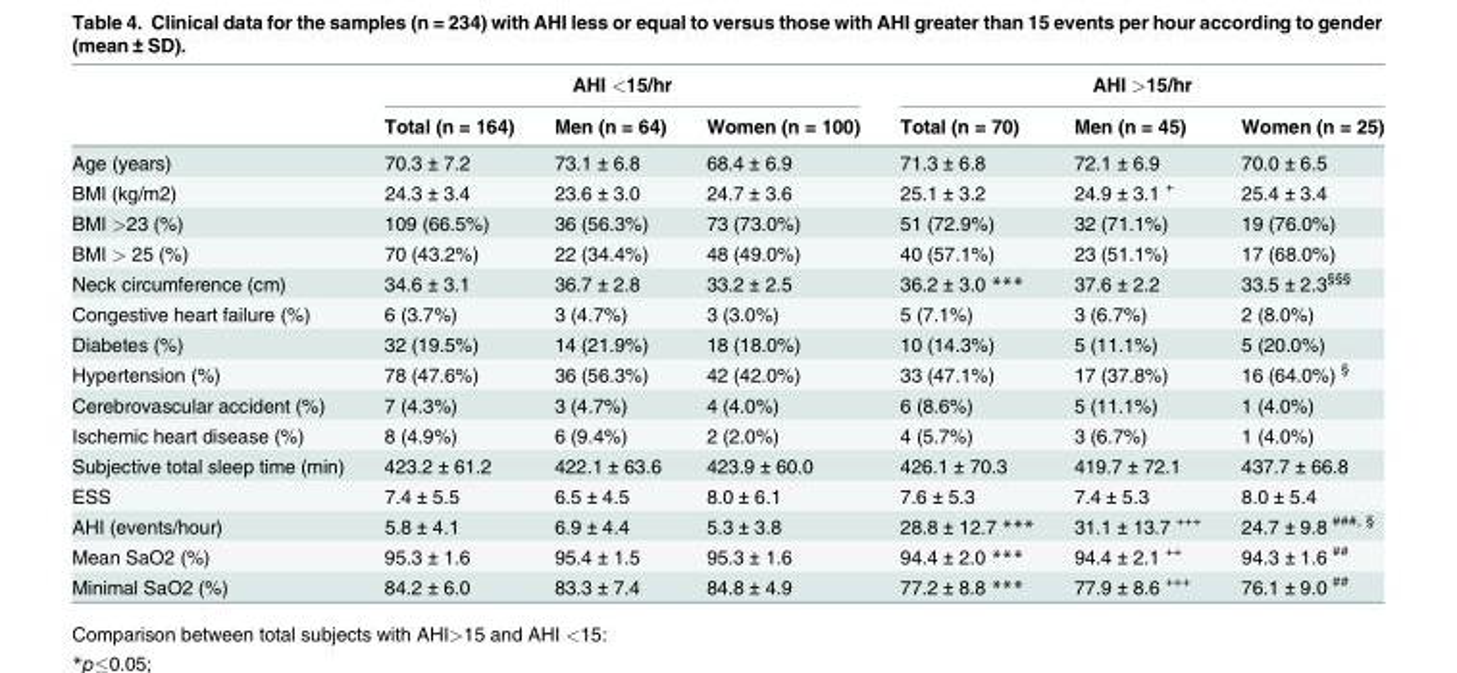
<table><thead><tr><td rowspan="2"></td><td colspan="3">AHI &lt;15/hr</td><td colspan="3">AHI &gt;15/hr</td></tr><tr><td>Total (n = 164)</td><td>Men (n = 64)</td><td>Women (n = 100)</td><td>Total (n = 70)</td><td>Men (n = 45)</td><td>Women (n = 25)</td></tr></thead><tbody><tr><td>Age (years)</td><td>70.3 ± 7.2</td><td>73.1 ± 6.8</td><td>68.4 ± 6.9</td><td>71.3 ± 6.8</td><td>72.1 ± 6.9</td><td>70.0 ± 6.5</td></tr><tr><td>BMI (kg/m2)</td><td>24.3 ± 3.4</td><td>23.6 ± 3.0</td><td>24.7 ± 3.6</td><td>25.1 ± 3.2</td><td>24.9 ± 3.1 <sup>+</sup></td><td>25.4 ± 3.4</td></tr><tr><td>BMI &gt;23 (%)</td><td>109 (66.5%)</td><td>36 (56.3%)</td><td>73 (73.0%)</td><td>51 (72.9%)</td><td>32 (71.1%)</td><td>19 (76.0%)</td></tr><tr><td>BMI &gt; 25 (%)</td><td>70 (43.2%)</td><td>22 (34.4%)</td><td>48 (49.0%)</td><td>40 (57.1%)</td><td>23 (51.1%)</td><td>17 (68.0%)</td></tr><tr><td>Neck circumference (cm)</td><td>34.6 ± 3.1</td><td>36.7 ± 2.8</td><td>33.2 ± 2.5</td><td>36.2 ± 3.0 ***</td><td>37.6 ± 2.2</td><td>33.5 ± 2.3<sup>§§§</sup></td></tr><tr><td>Congestive heart failure (%)</td><td>6 (3.7%)</td><td>3 (4.7%)</td><td>3 (3.0%)</td><td>5 (7.1%)</td><td>3 (6.7%)</td><td>2 (8.0%)</td></tr><tr><td>Diabetes (%)</td><td>32 (19.5%)</td><td>14 (21.9%)</td><td>18 (18.0%)</td><td>10 (14.3%)</td><td>5 (11.1%)</td><td>5 (20.0%)</td></tr><tr><td>Hypertension (%)</td><td>78 (47.6%)</td><td>36 (56.3%)</td><td>42 (42.0%)</td><td>33 (47.1%)</td><td>17 (37.8%)</td><td>16 (64.0%) <sup>§</sup></td></tr><tr><td>Cerebrovascular accident (%)</td><td>7 (4.3%)</td><td>3 (4.7%)</td><td>4 (4.0%)</td><td>6 (8.6%)</td><td>5 (11.1%)</td><td>1 (4.0%)</td></tr><tr><td>Ischemic heart disease (%)</td><td>8 (4.9%)</td><td>6 (9.4%)</td><td>2 (2.0%)</td><td>4 (5.7%)</td><td>3 (6.7%)</td><td>1 (4.0%)</td></tr><tr><td>Subjective total sleep time (min)</td><td>423.2 ± 61.2</td><td>422.1 ± 63.6</td><td>423.9 ± 60.0</td><td>426.1 ± 70.3</td><td>419.7 ± 72.1</td><td>437.7 ± 66.8</td></tr><tr><td>ESS</td><td>7.4 ± 5.5</td><td>6.5 ± 4.5</td><td>8.0 ± 6.1</td><td>7.6 ± 5.3</td><td>7.4 ± 5.3</td><td>8.0 ± 5.4</td></tr><tr><td>AHI (events/hour)</td><td>5.8 ± 4.1</td><td>6.9 ± 4.4</td><td>5.3 ± 3.8</td><td>28.8 ± 12.7 ***</td><td>31.1 ± 13.7 <sup>+++</sup></td><td>24.7 ± 9.8 <sup>###, §</sup></td></tr><tr><td>Mean SaO2 (%)</td><td>95.3 ± 1.6</td><td>95.4 ± 1.5</td><td>95.3 ± 1.6</td><td>94.4 ± 2.0 ***</td><td>94.4 ± 2.1 <sup>++</sup></td><td>94.3 ± 1.6 <sup>##</sup></td></tr><tr><td>Minimal SaO2 (%)</td><td>84.2 ± 6.0</td><td>83.3 ± 7.4</td><td>84.8 ± 4.9</td><td>77.2 ± 8.8 ***</td><td>77.9 ± 8.6 <sup>+++</sup></td><td>76.1 ± 9.0 <sup>##</sup></td></tr></tbody></table>